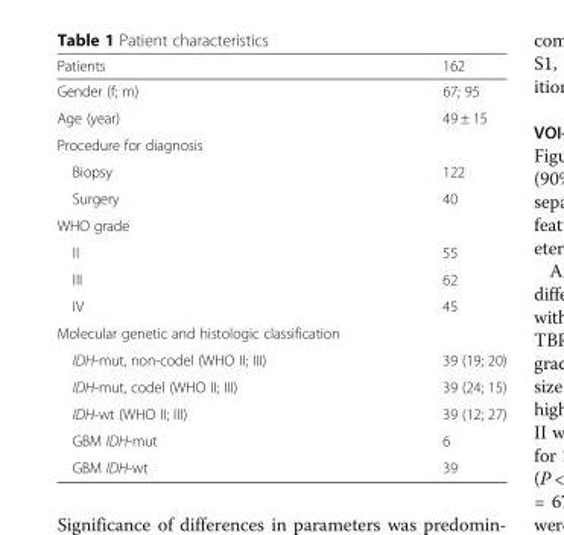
<table><thead><tr><td>Patients</td><td>162</td></tr></thead><tbody><tr><td>Gender (f; m)</td><td>67; 95</td></tr><tr><td>Age (year)</td><td>49 ± 15</td></tr><tr><td colspan="2">Procedure for diagnosis</td></tr><tr><td>Biopsy</td><td>122</td></tr><tr><td>Surgery</td><td>40</td></tr><tr><td colspan="2">WHO grade</td></tr><tr><td>II</td><td>55</td></tr><tr><td>III</td><td>62</td></tr><tr><td>IV</td><td>45</td></tr><tr><td colspan="2">Molecular genetic and histologic classification</td></tr><tr><td>IDH-mut, non-codel (WHO II; III)</td><td>39 (19; 20)</td></tr><tr><td>IDH-mut, codel (WHO II; III)</td><td>39 (24; 15)</td></tr><tr><td>IDH-wt (WHO II; III)</td><td>39 (12; 27)</td></tr><tr><td>GBM IDH-mut</td><td>6</td></tr><tr><td>GBM IDH-wt</td><td>39</td></tr></tbody></table>